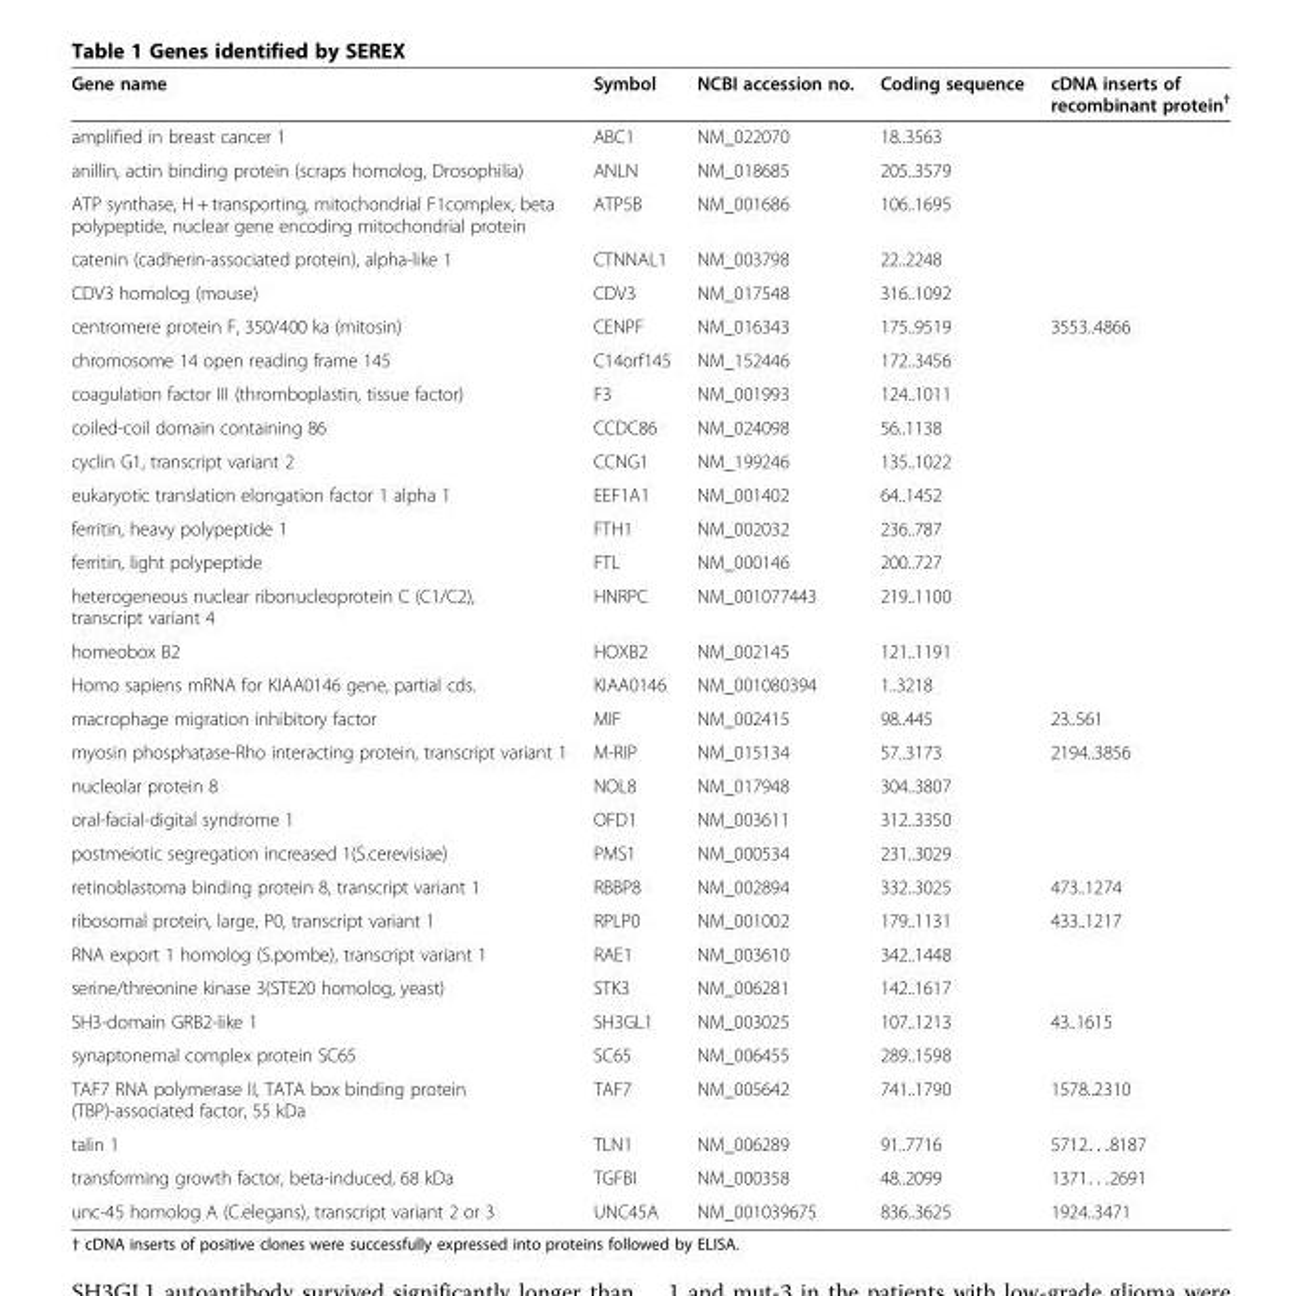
<table><thead><tr><td>Gene name</td><td>Symbol</td><td>NCBI accession no.</td><td>Coding sequence</td><td>cDNA inserts of recombinant protein<sup>†</sup></td></tr></thead><tbody><tr><td>amplified in breast cancer 1</td><td>ABC1</td><td>NM_022070</td><td>18..3563</td><td></td></tr><tr><td>anillin, actin binding protein (scraps homolog, Drosophilia)</td><td>ANLN</td><td>NM_018685</td><td>205..3579</td><td></td></tr><tr><td>ATP synthase, H + transporting, mitochondrial F1complex, beta polypeptide, nuclear gene encoding mitochondrial protein</td><td>ATP5B</td><td>NM_001686</td><td>106..1695</td><td></td></tr><tr><td>catenin (cadherin-associated protein), alpha-like 1</td><td>CTNNAL1</td><td>NM_003798</td><td>22..2248</td><td></td></tr><tr><td>CDV3 homolog (mouse)</td><td>CDV3</td><td>NM_017548</td><td>316..1092</td><td></td></tr><tr><td>centromere protein F, 350/400 ka (mitosin)</td><td>CENPF</td><td>NM_016343</td><td>175..9519</td><td>3553..4866</td></tr><tr><td>chromosome 14 open reading frame 145</td><td>C14orf145</td><td>NM_152446</td><td>172..3456</td><td></td></tr><tr><td>coagulation factor III (thromboplastin, tissue factor)</td><td>F3</td><td>NM_001993</td><td>124..1011</td><td></td></tr><tr><td>coiled-coil domain containing 86</td><td>CCDC86</td><td>NM_024098</td><td>56..1138</td><td></td></tr><tr><td>cyclin G1, transcript variant 2</td><td>CCNG1</td><td>NM_199246</td><td>135..1022</td><td></td></tr><tr><td>eukaryotic translation elongation factor 1 alpha 1</td><td>EEF1A1</td><td>NM_001402</td><td>64..1452</td><td></td></tr><tr><td>ferritin, heavy polypeptide 1</td><td>FTH1</td><td>NM_002032</td><td>236..787</td><td></td></tr><tr><td>ferritin, light polypeptide</td><td>FTL</td><td>NM_000146</td><td>200..727</td><td></td></tr><tr><td>heterogeneous nuclear ribonucleoprotein C (C1/C2), transcript variant 4</td><td>HNRPC</td><td>NM_001077443</td><td>219..1100</td><td></td></tr><tr><td>homeobox B2</td><td>HOXB2</td><td>NM_002145</td><td>121..1191</td><td></td></tr><tr><td>Homo sapiens mRNA for KIAA0146 gene, partial cds.</td><td>KIAA0146</td><td>NM_001080394</td><td>1..3218</td><td></td></tr><tr><td>macrophage migration inhibitory factor</td><td>MIF</td><td>NM_002415</td><td>98..445</td><td>23..561</td></tr><tr><td>myosin phosphatase-Rho interacting protein, transcript variant 1</td><td>M-RIP</td><td>NM_015134</td><td>57..3173</td><td>2194..3856</td></tr><tr><td>nucleolar protein 8</td><td>NOL8</td><td>NM_017948</td><td>304..3807</td><td></td></tr><tr><td>oral-facial-digital syndrome 1</td><td>OFD1</td><td>NM_003611</td><td>312..3350</td><td></td></tr><tr><td>postmeiotic segregation increased 1(S.cerevisiae)</td><td>PMS1</td><td>NM_000534</td><td>231..3029</td><td></td></tr><tr><td>retinoblastoma binding protein 8, transcript variant 1</td><td>RBBP8</td><td>NM_002894</td><td>332..3025</td><td>473..1274</td></tr><tr><td>ribosomal protein, large, P0, transcript variant 1</td><td>RPLP0</td><td>NM_001002</td><td>179..1131</td><td>433..1217</td></tr><tr><td>RNA export 1 homolog (S.pombe), transcript variant 1</td><td>RAE1</td><td>NM_003610</td><td>342..1448</td><td></td></tr><tr><td>serine/threonine kinase 3(STE20 homolog, yeast)</td><td>STK3</td><td>NM_006281</td><td>142..1617</td><td></td></tr><tr><td>SH3-domain GRB2-like 1</td><td>SH3GL1</td><td>NM_003025</td><td>107..1213</td><td>43..1615</td></tr><tr><td>synaptonemal complex protein SC65</td><td>SC65</td><td>NM_006455</td><td>289..1598</td><td></td></tr><tr><td>TAF7 RNA polymerase II, TATA box binding protein (TBP)-associated factor, 55 kDa</td><td>TAF7</td><td>NM_005642</td><td>741..1790</td><td>1578..2310</td></tr><tr><td>talin 1</td><td>TLN1</td><td>NM_006289</td><td>91..7716</td><td>5712. . .8187</td></tr><tr><td>transforming growth factor, beta-induced, 68 kDa</td><td>TGFBI</td><td>NM_000358</td><td>48..2099</td><td>1371. . .2691</td></tr><tr><td>unc-45 homolog A (C.elegans), transcript variant 2 or 3</td><td>UNC45A</td><td>NM_001039675</td><td>836..3625</td><td>1924..3471</td></tr></tbody></table>